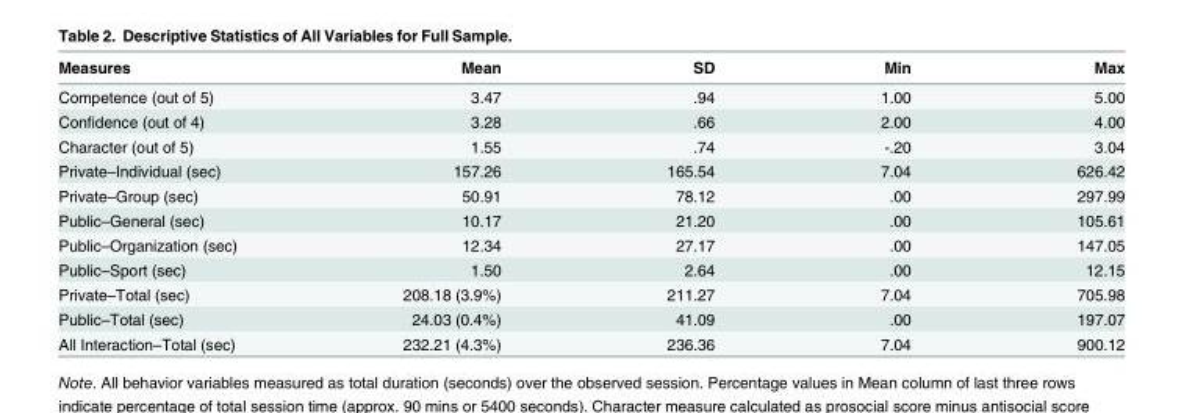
<table><thead><tr><td>Measures</td><td>Mean</td><td>SD</td><td>Min</td><td>Max</td></tr></thead><tbody><tr><td>Competence (out of 5)</td><td>3.47</td><td>.94</td><td>1.00</td><td>5.00</td></tr><tr><td>Confidence (out of 4)</td><td>3.28</td><td>.66</td><td>2.00</td><td>4.00</td></tr><tr><td>Character (out of 5)</td><td>1.55</td><td>.74</td><td>-.20</td><td>3.04</td></tr><tr><td>Private–Individual (sec)</td><td>157.26</td><td>165.54</td><td>7.04</td><td>626.42</td></tr><tr><td>Private–Group (sec)</td><td>50.91</td><td>78.12</td><td>.00</td><td>297.99</td></tr><tr><td>Public–General (sec)</td><td>10.17</td><td>21.20</td><td>.00</td><td>105.61</td></tr><tr><td>Public–Organization (sec)</td><td>12.34</td><td>27.17</td><td>.00</td><td>147.05</td></tr><tr><td>Public–Sport (sec)</td><td>1.50</td><td>2.64</td><td>.00</td><td>12.15</td></tr><tr><td>Private–Total (sec)</td><td>208.18 (3.9%)</td><td>211.27</td><td>7.04</td><td>705.98</td></tr><tr><td>Public–Total (sec)</td><td>24.03 (0.4%)</td><td>41.09</td><td>.00</td><td>197.07</td></tr><tr><td>All Interaction–Total (sec)</td><td>232.21 (4.3%)</td><td>236.36</td><td>7.04</td><td>900.12</td></tr></tbody></table>